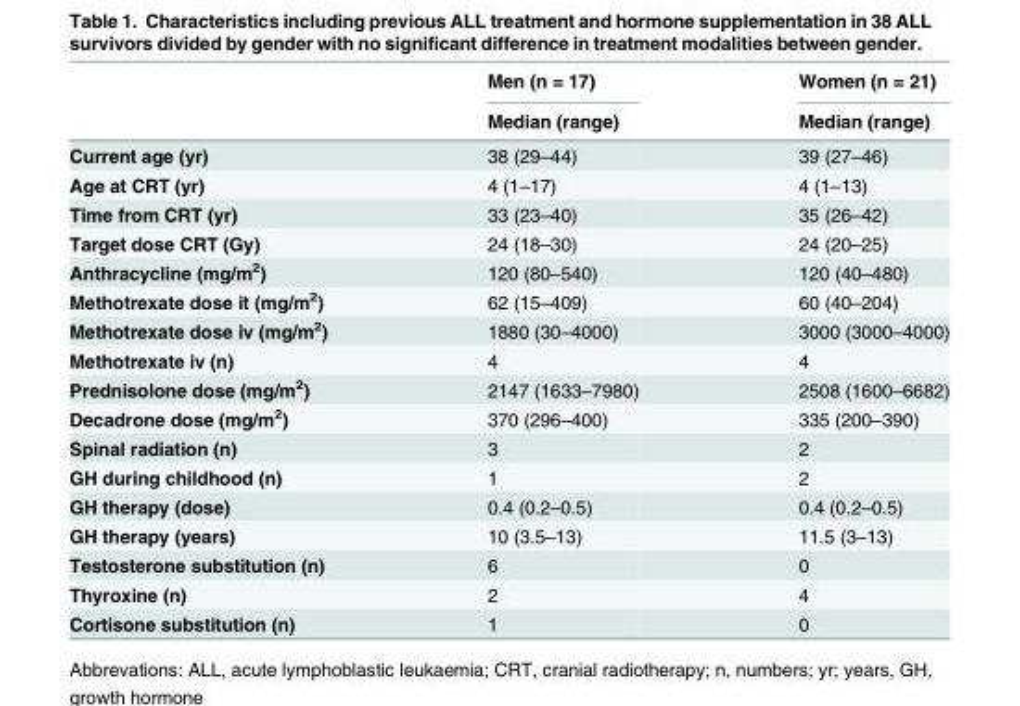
<table><thead><tr><td rowspan="2"></td><td rowspan="2">Men (n = 17) Median (range)</td><td rowspan="2">Women (n = 21) Median (range)</td></tr><tr></tr></thead><tbody><tr><td>Current age (yr)</td><td>38 (29–44)</td><td>39 (27–46)</td></tr><tr><td>Age at CRT (yr)</td><td>4 (1–17)</td><td>4 (1–13)</td></tr><tr><td>Time from CRT (yr)</td><td>33 (23–40)</td><td>35 (26–42)</td></tr><tr><td>Target dose CRT (Gy)</td><td>24 (18–30)</td><td>24 (20–25)</td></tr><tr><td>Anthracycline (mg/m<sup>2</sup>)</td><td>120 (80–540)</td><td>120 (40–480)</td></tr><tr><td>Methotrexate dose it (mg/m<sup>2</sup>)</td><td>62 (15–409)</td><td>60 (40–204)</td></tr><tr><td>Methotrexate dose iv (mg/m<sup>2</sup>)</td><td>1880 (30–4000)</td><td>3000 (3000–4000)</td></tr><tr><td>Methotrexate iv (n)</td><td>4</td><td>4</td></tr><tr><td>Prednisolone dose (mg/m<sup>2</sup>)</td><td>2147 (1633–7980)</td><td>2508 (1600–6682)</td></tr><tr><td>Decadrone dose (mg/m<sup>2</sup>)</td><td>370 (296–400)</td><td>335 (200–390)</td></tr><tr><td>Spinal radiation (n)</td><td>3</td><td>2</td></tr><tr><td>GH during childhood (n)</td><td>1</td><td>2</td></tr><tr><td>GH therapy (dose)</td><td>0.4 (0.2–0.5)</td><td>0.4 (0.2–0.5)</td></tr><tr><td>GH therapy (years)</td><td>10 (3.5–13)</td><td>11.5 (3–13)</td></tr><tr><td>Testosterone substitution (n)</td><td>6</td><td>0</td></tr><tr><td>Thyroxine (n)</td><td>2</td><td>4</td></tr><tr><td>Cortisone substitution (n)</td><td>1</td><td>0</td></tr></tbody></table>